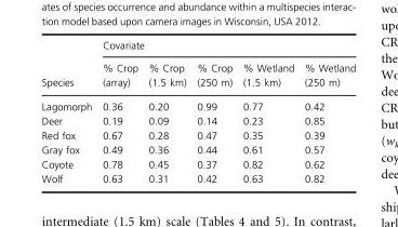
<table><thead><tr><td rowspan="2">Species</td><td colspan="5">Covariate</td></tr><tr><td>% Crop (array)</td><td>% Crop (1.5 km)</td><td>% Crop (250 m)</td><td>% Wetland (1.5 km)</td><td>% Wetland (250 m)</td></tr></thead><tbody><tr><td>Lagomorph</td><td>0.36</td><td>0.20</td><td>0.99</td><td>0.77</td><td>0.42</td></tr><tr><td>Deer</td><td>0.19</td><td>0.09</td><td>0.14</td><td>0.23</td><td>0.85</td></tr><tr><td>Red fox</td><td>0.67</td><td>0.28</td><td>0.47</td><td>0.35</td><td>0.39</td></tr><tr><td>Gray fox</td><td>0.49</td><td>0.36</td><td>0.44</td><td>0.61</td><td>0.57</td></tr><tr><td>Coyote</td><td>0.78</td><td>0.45</td><td>0.37</td><td>0.82</td><td>0.62</td></tr><tr><td>Wolf</td><td>0.63</td><td>0.31</td><td>0.42</td><td>0.63</td><td>0.82</td></tr></tbody></table>